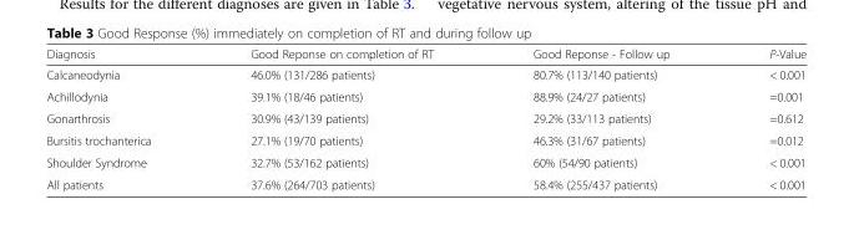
<table><thead><tr><td>Diagnosis</td><td>Good Reponse on completion of RT</td><td>Good Reponse - Follow up</td><td>P-Value</td></tr></thead><tbody><tr><td>Calcaneodynia</td><td>46.0% (131/286 patients)</td><td>80.7% (113/140 patients)</td><td>&lt; 0.001</td></tr><tr><td>Achillodynia</td><td>39.1% (18/46 patients)</td><td>88.9% (24/27 patients)</td><td>=0.001</td></tr><tr><td>Gonarthrosis</td><td>30.9% (43/139 patients)</td><td>29.2% (33/113 patients)</td><td>=0.612</td></tr><tr><td>Bursitis trochanterica</td><td>27.1% (19/70 patients)</td><td>46.3% (31/67 patients)</td><td>=0.012</td></tr><tr><td>Shoulder Syndrome</td><td>32.7% (53/162 patients)</td><td>60% (54/90 patients)</td><td>&lt; 0.001</td></tr><tr><td>All patients</td><td>37.6% (264/703 patients)</td><td>58.4% (255/437 patients)</td><td>&lt; 0.001</td></tr></tbody></table>